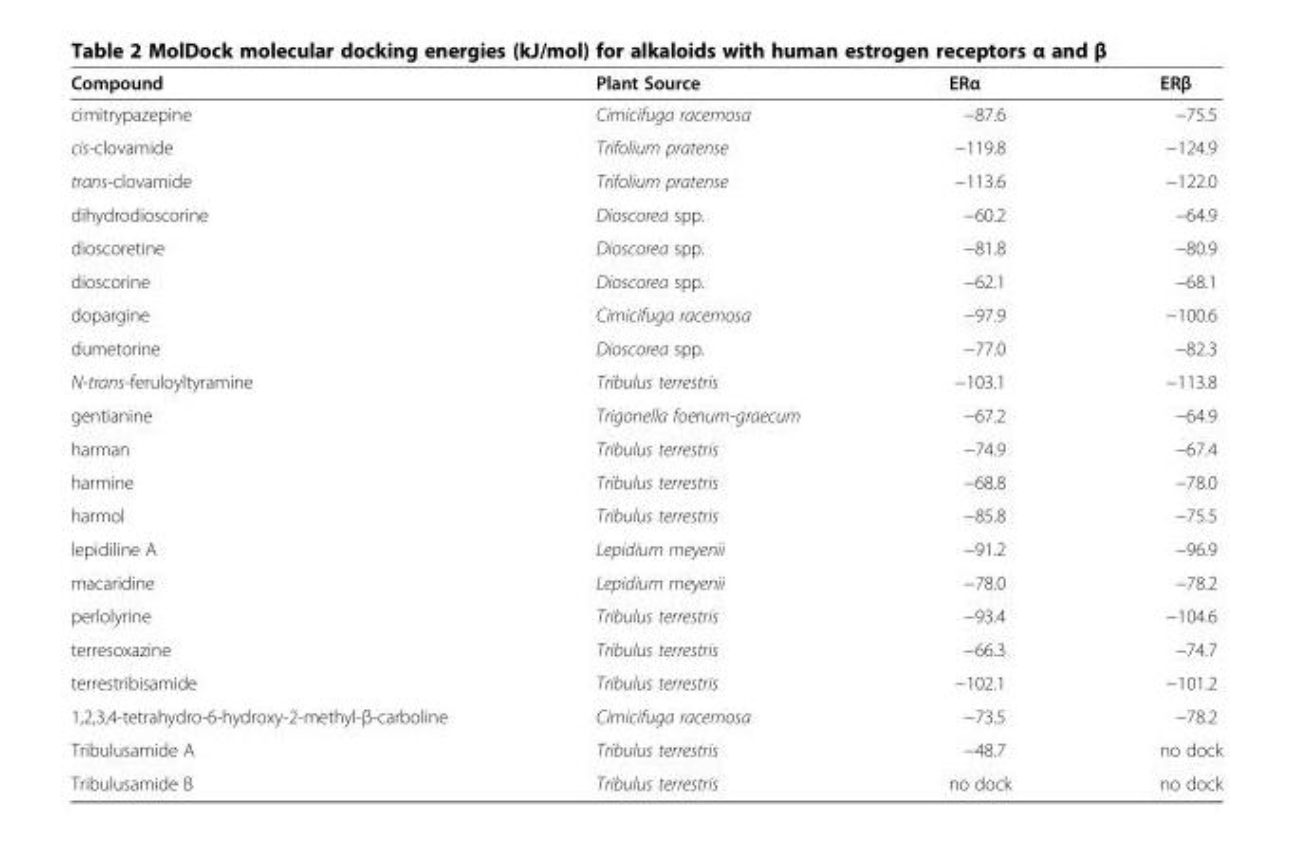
<table><thead><tr><td>Compound</td><td>Plant Source</td><td>ERα</td><td>ERβ</td></tr></thead><tbody><tr><td>cimitrypazepine</td><td>Cimicifuga racemosa</td><td>−87.6</td><td>−75.5</td></tr><tr><td>cis-clovamide</td><td>Trifolium pratense</td><td>−119.8</td><td>−124.9</td></tr><tr><td>trans-clovamide</td><td>Trifolium pratense</td><td>−113.6</td><td>−122.0</td></tr><tr><td>dihydrodioscorine</td><td>Dioscorea spp.</td><td>−60.2</td><td>−64.9</td></tr><tr><td>dioscoretine</td><td>Dioscorea spp.</td><td>−81.8</td><td>−80.9</td></tr><tr><td>dioscorine</td><td>Dioscorea spp.</td><td>−62.1</td><td>−68.1</td></tr><tr><td>dopargine</td><td>Cimicifuga racemosa</td><td>−97.9</td><td>−100.6</td></tr><tr><td>dumetorine</td><td>Dioscorea spp.</td><td>−77.0</td><td>−82.3</td></tr><tr><td>N-trans-feruloyltyramine</td><td>Tribulus terrestris</td><td>−103.1</td><td>−113.8</td></tr><tr><td>gentianine</td><td>Trigonella foenum-graecum</td><td>−67.2</td><td>−64.9</td></tr><tr><td>harman</td><td>Tribulus terrestris</td><td>−74.9</td><td>−67.4</td></tr><tr><td>harmine</td><td>Tribulus terrestris</td><td>−68.8</td><td>−78.0</td></tr><tr><td>harmol</td><td>Tribulus terrestris</td><td>−85.8</td><td>−75.5</td></tr><tr><td>lepidiline A</td><td>Lepidium meyenii</td><td>−91.2</td><td>−96.9</td></tr><tr><td>macaridine</td><td>Lepidium meyenii</td><td>−78.0</td><td>−78.2</td></tr><tr><td>perlolyrine</td><td>Tribulus terrestris</td><td>−93.4</td><td>−104.6</td></tr><tr><td>terresoxazine</td><td>Tribulus terrestris</td><td>−66.3</td><td>−74.7</td></tr><tr><td>terrestribisamide</td><td>Tribulus terrestris</td><td>−102.1</td><td>−101.2</td></tr><tr><td>1,2,3,4-tetrahydro-6-hydroxy-2-methyl-β-carboline</td><td>Cimicifuga racemosa</td><td>−73.5</td><td>−78.2</td></tr><tr><td>Tribulusamide A</td><td>Tribulus terrestris</td><td>−48.7</td><td>no dock</td></tr><tr><td>Tribulusamide B</td><td>Tribulus terrestris</td><td>no dock</td><td>no dock</td></tr></tbody></table>